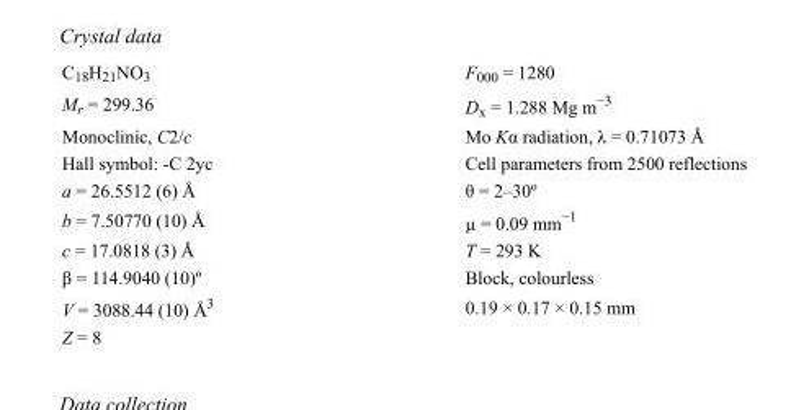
<table><tbody><tr><td>C<sub>18</sub>H<sub>21</sub>NO<sub>3</sub></td><td>F000 = 1280</td></tr><tr><td>M<sub>r</sub> = 299.36</td><td>D<sub>x</sub> = 1.288 Mg m<sup>−3</sup></td></tr><tr><td>Monoclinic, C2/c</td><td>Mo Kα radiation, λ = 0.71073 Å</td></tr><tr><td>Hall symbol: -C 2yc</td><td>Cell parameters from 2500 reflections</td></tr><tr><td>a = 26.5512 (6) Å</td><td>θ = 2–30º</td></tr><tr><td>b = 7.50770 (10) Å</td><td>µ = 0.09 mm<sup>−1</sup></td></tr><tr><td>c = 17.0818 (3) Å</td><td>T = 293 K</td></tr><tr><td>β = 114.9040 (10)º</td><td>Block, colourless</td></tr><tr><td>V = 3088.44 (10) Å<sup>3</sup></td><td>0.19 × 0.17 × 0.15 mm</td></tr><tr><td>Z = 8</td><td></td></tr></tbody></table>